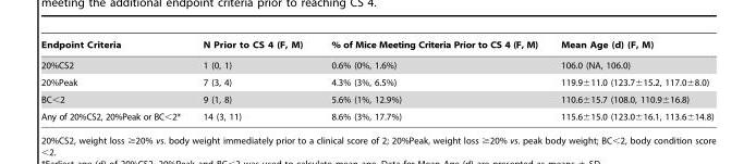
<table><thead><tr><td>Endpoint Criteria</td><td>N Prior to CS 4 (F, M)</td><td>% of Mice Meeting Criteria Prior to CS 4 (F, M)</td><td>Mean Age (d) (F, M)</td></tr></thead><tbody><tr><td>20%CS2</td><td>1 (0, 1)</td><td>0.6% (0%, 1.6%)</td><td>106.0 (NA, 106.0)</td></tr><tr><td>20%Peak</td><td>7 (3, 4)</td><td>4.3% (3%, 6.5%)</td><td>119.9±11.0 (123.7±15.2, 117.0±8.0)</td></tr><tr><td>BC&lt;2</td><td>9 (1, 8)</td><td>5.6% (1%, 12.9%)</td><td>110.6±15.7 (108.0, 110.9±16.8)</td></tr><tr><td>Any of 20%CS2, 20%Peak or BC&lt;2*</td><td>14 (3, 11)</td><td>8.6% (3%, 17.7%)</td><td>115.6±15.0 (123.0±16.1, 113.6±14.8)</td></tr></tbody></table>